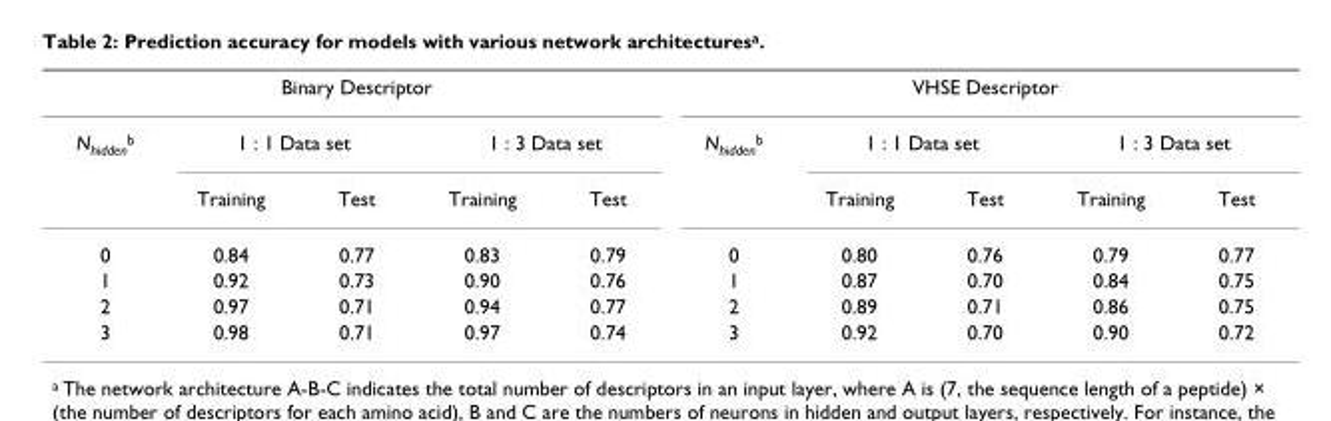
<table><tbody><tr><td colspan="5">Binary Descriptor</td><td colspan="5">VHSE Descriptor</td></tr><tr><td rowspan="2">N<sub>hidden</sub><sup>b</sup></td><td colspan="2">1 : 1 Data set</td><td colspan="2">1 : 3 Data set</td><td>N<sub>hidden</sub><sup>b</sup></td><td colspan="2">1 : 1 Data set</td><td colspan="2">1 : 3 Data set</td></tr><tr><td>Training</td><td>Test</td><td>Training</td><td>Test</td><td></td><td>Training</td><td>Test</td><td>Training</td><td>Test</td></tr><tr><td>0</td><td>0.84</td><td>0.77</td><td>0.83</td><td>0.79</td><td>0</td><td>0.80</td><td>0.76</td><td>0.79</td><td>0.77</td></tr><tr><td>1</td><td>0.92</td><td>0.73</td><td>0.90</td><td>0.76</td><td>1</td><td>0.87</td><td>0.70</td><td>0.84</td><td>0.75</td></tr><tr><td>2</td><td>0.97</td><td>0.71</td><td>0.94</td><td>0.77</td><td>2</td><td>0.89</td><td>0.71</td><td>0.86</td><td>0.75</td></tr><tr><td>3</td><td>0.98</td><td>0.71</td><td>0.97</td><td>0.74</td><td>3</td><td>0.92</td><td>0.70</td><td>0.90</td><td>0.72</td></tr></tbody></table>